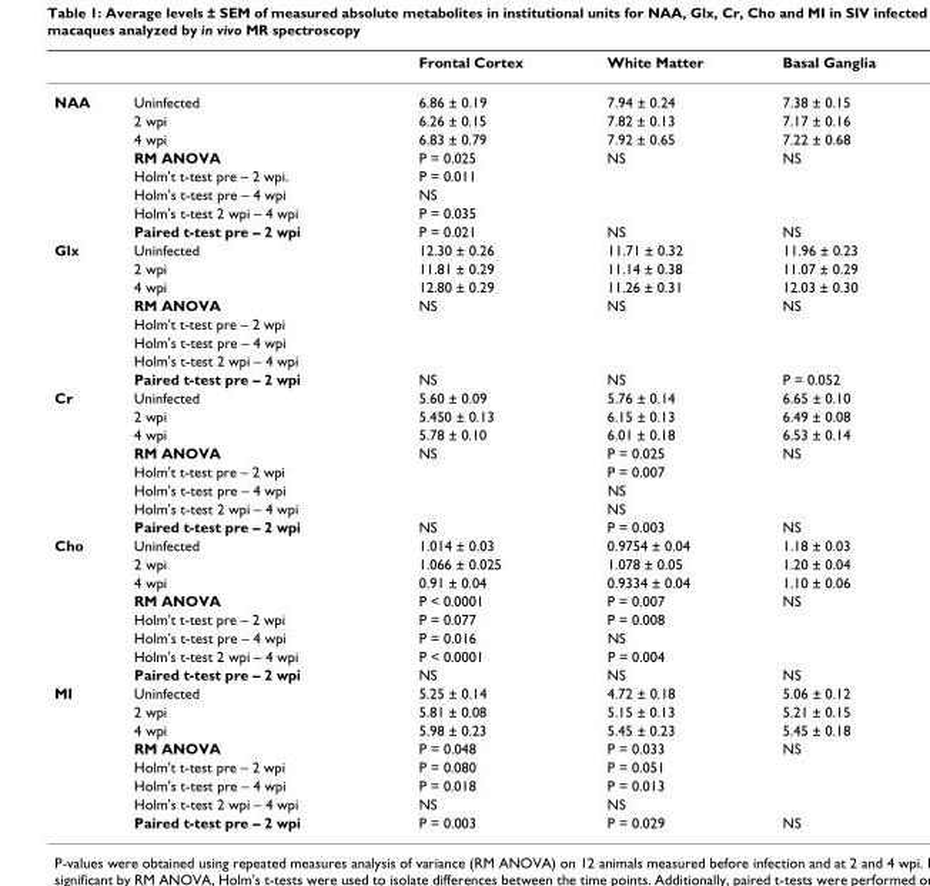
<table><thead><tr><td></td><td></td><td>Frontal Cortex</td><td>White Matter</td><td>Basal Ganglia</td></tr></thead><tbody><tr><td rowspan="8">NAA</td><td>Uninfected</td><td>6.86 ± 0.19</td><td>7.94 ± 0.24</td><td>7.38 ± 0.15</td></tr><tr><td>2 wpi</td><td>6.26 ± 0.15</td><td>7.82 ± 0.13</td><td>7.17 ± 0.16</td></tr><tr><td>4 wpi</td><td>6.83 ± 0.79</td><td>7.92 ± 0.65</td><td>7.22 ± 0.68</td></tr><tr><td>RM ANOVA</td><td>P = 0.025</td><td>NS</td><td>NS</td></tr><tr><td>Holm&#x27;t t-test pre – 2 wpi.</td><td>P = 0.011</td><td></td><td></td></tr><tr><td>Holm&#x27;s t-test pre – 4 wpi</td><td>NS</td><td></td><td></td></tr><tr><td>Holm&#x27;s t-test 2 wpi – 4 wpi</td><td>P = 0.035</td><td></td><td></td></tr><tr><td>Paired t-test pre – 2 wpi</td><td>P = 0.021</td><td>NS</td><td>NS</td></tr><tr><td rowspan="8">Glx</td><td>Uninfected</td><td>12.30 ± 0.26</td><td>11.71 ± 0.32</td><td>11.96 ± 0.23</td></tr><tr><td>2 wpi</td><td>11.81 ± 0.29</td><td>11.14 ± 0.38</td><td>11.07 ± 0.29</td></tr><tr><td>4 wpi</td><td>12.80 ± 0.29</td><td>11.26 ± 0.31</td><td>12.03 ± 0.30</td></tr><tr><td>RM ANOVA</td><td>NS</td><td>NS</td><td>NS</td></tr><tr><td>Holm&#x27;t t-test pre – 2 wpi</td><td></td><td></td><td></td></tr><tr><td>Holm&#x27;s t-test pre – 4 wpi</td><td></td><td></td><td></td></tr><tr><td>Holm&#x27;s t-test 2 wpi – 4 wpi</td><td></td><td></td><td></td></tr><tr><td>Paired t-test pre – 2 wpi</td><td>NS</td><td>NS</td><td>P = 0.052</td></tr><tr><td rowspan="8">Cr</td><td>Uninfected</td><td>5.60 ± 0.09</td><td>5.76 ± 0.14</td><td>6.65 ± 0.10</td></tr><tr><td>2 wpi</td><td>5.450 ± 0.13</td><td>6.15 ± 0.13</td><td>6.49 ± 0.08</td></tr><tr><td>4 wpi</td><td>5.78 ± 0.10</td><td>6.01 ± 0.18</td><td>6.53 ± 0.14</td></tr><tr><td>RM ANOVA</td><td>NS</td><td>P = 0.025</td><td>NS</td></tr><tr><td>Holm&#x27;t t-test pre – 2 wpi</td><td></td><td>P = 0.007</td><td></td></tr><tr><td>Holm&#x27;s t-test pre – 4 wpi</td><td></td><td>NS</td><td></td></tr><tr><td>Holm&#x27;s t-test 2 wpi – 4 wpi</td><td></td><td>NS</td><td></td></tr><tr><td>Paired t-test pre – 2 wpi</td><td>NS</td><td>P = 0.003</td><td>NS</td></tr><tr><td rowspan="8">Cho</td><td>Uninfected</td><td>1.014 ± 0.03</td><td>0.9754 ± 0.04</td><td>1.18 ± 0.03</td></tr><tr><td>2 wpi</td><td>1.066 ± 0.025</td><td>1.078 ± 0.05</td><td>1.20 ± 0.04</td></tr><tr><td>4 wpi</td><td>0.91 ± 0.04</td><td>0.9334 ± 0.04</td><td>1.10 ± 0.06</td></tr><tr><td>RM ANOVA</td><td>P &lt; 0.0001</td><td>P = 0.007</td><td>NS</td></tr><tr><td>Holm&#x27;t t-test pre – 2 wpi</td><td>P = 0.077</td><td>P = 0.008</td><td></td></tr><tr><td>Holm&#x27;s t-test pre – 4 wpi</td><td>P = 0.016</td><td>NS</td><td></td></tr><tr><td>Holm&#x27;s t-test 2 wpi – 4 wpi</td><td>P &lt; 0.0001</td><td>P = 0.004</td><td></td></tr><tr><td>Paired t-test pre – 2 wpi</td><td>NS</td><td>NS</td><td>NS</td></tr><tr><td rowspan="8">MI</td><td>Uninfected</td><td>5.25 ± 0.14</td><td>4.72 ± 0.18</td><td>5.06 ± 0.12</td></tr><tr><td>2 wpi</td><td>5.81 ± 0.08</td><td>5.15 ± 0.13</td><td>5.21 ± 0.15</td></tr><tr><td>4 wpi</td><td>5.98 ± 0.23</td><td>5.45 ± 0.23</td><td>5.45 ± 0.18</td></tr><tr><td>RM ANOVA</td><td>P = 0.048</td><td>P = 0.033</td><td>NS</td></tr><tr><td>Holm&#x27;t t-test pre – 2 wpi</td><td>P = 0.080</td><td>P = 0.051</td><td></td></tr><tr><td>Holm&#x27;s t-test pre – 4 wpi</td><td>P = 0.018</td><td>P = 0.013</td><td></td></tr><tr><td>Holm&#x27;s t-test 2 wpi – 4 wpi</td><td>NS</td><td>NS</td><td></td></tr><tr><td>Paired t-test pre – 2 wpi</td><td>P = 0.003</td><td>P = 0.029</td><td>NS</td></tr></tbody></table>